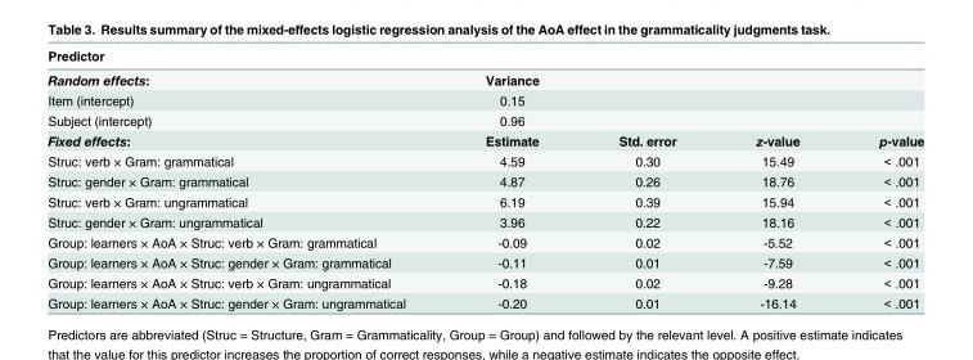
<table><thead><tr><td>Predictor</td><td></td><td></td><td></td><td></td></tr></thead><tbody><tr><td>Random effects:</td><td>Variance</td><td></td><td></td><td></td></tr><tr><td>Item (intercept)</td><td>0.15</td><td></td><td></td><td></td></tr><tr><td>Subject (intercept)</td><td>0.96</td><td></td><td></td><td></td></tr><tr><td>Fixed effects:</td><td>Estimate</td><td>Std. error</td><td>z-value</td><td>p-value</td></tr><tr><td>Struc: verb × Gram: grammatical</td><td>4.59</td><td>0.30</td><td>15.49</td><td>&lt; .001</td></tr><tr><td>Struc: gender × Gram: grammatical</td><td>4.87</td><td>0.26</td><td>18.76</td><td>&lt; .001</td></tr><tr><td>Struc: verb × Gram: ungrammatical</td><td>6.19</td><td>0.39</td><td>15.94</td><td>&lt; .001</td></tr><tr><td>Struc: gender × Gram: ungrammatical</td><td>3.96</td><td>0.22</td><td>18.16</td><td>&lt; .001</td></tr><tr><td>Group: learners × AoA × Struc: verb × Gram: grammatical</td><td>-0.09</td><td>0.02</td><td>-5.52</td><td>&lt; .001</td></tr><tr><td>Group: learners × AoA × Struc: gender × Gram: grammatical</td><td>-0.11</td><td>0.01</td><td>-7.59</td><td>&lt; .001</td></tr><tr><td>Group: learners × AoA × Struc: verb × Gram: ungrammatical</td><td>-0.18</td><td>0.02</td><td>-9.28</td><td>&lt; .001</td></tr><tr><td>Group: learners × AoA × Struc: gender × Gram: ungrammatical</td><td>-0.20</td><td>0.01</td><td>-16.14</td><td>&lt; .001</td></tr></tbody></table>